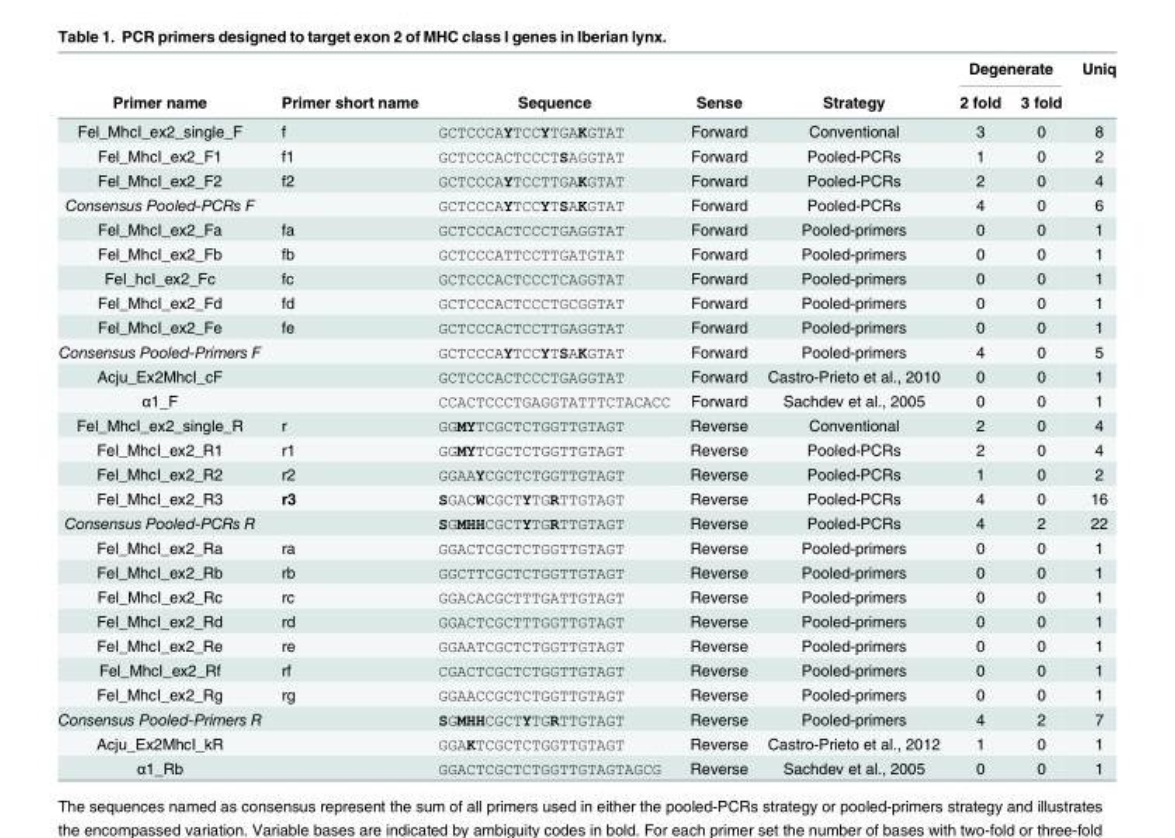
<table><thead><tr><td rowspan="2">Primer name</td><td rowspan="2">Primer short name</td><td rowspan="2">Sequence</td><td rowspan="2">Sense</td><td rowspan="2">Strategy</td><td colspan="2">Degenerate</td><td rowspan="2">Uniq</td></tr><tr><td>2 fold</td><td>3 fold</td></tr></thead><tbody><tr><td>Fel_MhcI_ex2_single_F</td><td>f</td><td>GCTCCCAYTCCYTGAKGTAT</td><td>Forward</td><td>Conventional</td><td>3</td><td>0</td><td>8</td></tr><tr><td>Fel_MhcI_ex2_F1</td><td>f1</td><td>GCTCCCACTCCCTSAGGTAT</td><td>Forward</td><td>Pooled-PCRs</td><td>1</td><td>0</td><td>2</td></tr><tr><td>Fel_MhcI_ex2_F2</td><td>f2</td><td>GCTCCCAYTCCTTGAKGTAT</td><td>Forward</td><td>Pooled-PCRs</td><td>2</td><td>0</td><td>4</td></tr><tr><td>Consensus Pooled-PCRs F</td><td></td><td>GCTCCCAYTCCYTSAKGTAT</td><td>Forward</td><td>Pooled-PCRs</td><td>4</td><td>0</td><td>6</td></tr><tr><td>Fel_MhcI_ex2_Fa</td><td>fa</td><td>GCTCCCACTCCCTGAGGTAT</td><td>Forward</td><td>Pooled-primers</td><td>0</td><td>0</td><td>1</td></tr><tr><td>Fel_MhcI_ex2_Fb</td><td>fb</td><td>GCTCCCATTCCTTGATGTAT</td><td>Forward</td><td>Pooled-primers</td><td>0</td><td>0</td><td>1</td></tr><tr><td>Fel_hcI_ex2_Fc</td><td>fc</td><td>GCTCCCACTCCCTCAGGTAT</td><td>Forward</td><td>Pooled-primers</td><td>0</td><td>0</td><td>1</td></tr><tr><td>Fel_MhcI_ex2_Fd</td><td>fd</td><td>GCTCCCACTCCCTGCGGTAT</td><td>Forward</td><td>Pooled-primers</td><td>0</td><td>0</td><td>1</td></tr><tr><td>Fel_MhcI_ex2_Fe</td><td>fe</td><td>GCTCCCACTCCTTGAGGTAT</td><td>Forward</td><td>Pooled-primers</td><td>0</td><td>0</td><td>1</td></tr><tr><td>Consensus Pooled-Primers F</td><td></td><td>GCTCCCAYTCCYTSAKGTAT</td><td>Forward</td><td>Pooled-primers</td><td>4</td><td>0</td><td>5</td></tr><tr><td>Acju_Ex2MhcI_cF</td><td></td><td>GCTCCCACTCCCTGAGGTAT</td><td>Forward</td><td>Castro-Prieto et al., 2010</td><td>0</td><td>0</td><td>1</td></tr><tr><td>α1_F</td><td></td><td>CCACTCCCTGAGGTATTTCTACACC</td><td>Forward</td><td>Sachdev et al., 2005</td><td>0</td><td>0</td><td>1</td></tr><tr><td>Fel_MhcI_ex2_single_R</td><td>r</td><td>GGMYTCGCTCTGGTTGTAGT</td><td>Reverse</td><td>Conventional</td><td>2</td><td>0</td><td>4</td></tr><tr><td>Fel_MhcI_ex2_R1</td><td>r1</td><td>GGMYTCGCTCTGGTTGTAGT</td><td>Reverse</td><td>Pooled-PCRs</td><td>2</td><td>0</td><td>4</td></tr><tr><td>Fel_MhcI_ex2_R2</td><td>r2</td><td>GGAAYCGCTCTGGTTGTAGT</td><td>Reverse</td><td>Pooled-PCRs</td><td>1</td><td>0</td><td>2</td></tr><tr><td>Fel_MhcI_ex2_R3</td><td>r3</td><td>SGACWCGCTYTGRTTGTAGT</td><td>Reverse</td><td>Pooled-PCRs</td><td>4</td><td>0</td><td>16</td></tr><tr><td>Consensus Pooled-PCRs R</td><td></td><td>SGMHHCGCTYTGRTTGTAGT</td><td>Reverse</td><td>Pooled-PCRs</td><td>4</td><td>2</td><td>22</td></tr><tr><td>Fel_MhcI_ex2_Ra</td><td>ra</td><td>GGACTCGCTCTGGTTGTAGT</td><td>Reverse</td><td>Pooled-primers</td><td>0</td><td>0</td><td>1</td></tr><tr><td>Fel_MhcI_ex2_Rb</td><td>rb</td><td>GGCTTCGCTCTGGTTGTAGT</td><td>Reverse</td><td>Pooled-primers</td><td>0</td><td>0</td><td>1</td></tr><tr><td>Fel_MhcI_ex2_Rc</td><td>rc</td><td>GGACACGCTTTGATTGTAGT</td><td>Reverse</td><td>Pooled-primers</td><td>0</td><td>0</td><td>1</td></tr><tr><td>Fel_MhcI_ex2_Rd</td><td>rd</td><td>GGACTCGCTTTGGTTGTAGT</td><td>Reverse</td><td>Pooled-primers</td><td>0</td><td>0</td><td>1</td></tr><tr><td>Fel_MhcI_ex2_Re</td><td>re</td><td>GGAATCGCTCTGGTTGTAGT</td><td>Reverse</td><td>Pooled-primers</td><td>0</td><td>0</td><td>1</td></tr><tr><td>Fel_MhcI_ex2_Rf</td><td>rf</td><td>CGACTCGCTCTGGTTGTAGT</td><td>Reverse</td><td>Pooled-primers</td><td>0</td><td>0</td><td>1</td></tr><tr><td>Fel_MhcI_ex2_Rg</td><td>rg</td><td>GGAACCGCTCTGGTTGTAGT</td><td>Reverse</td><td>Pooled-primers</td><td>0</td><td>0</td><td>1</td></tr><tr><td>Consensus Pooled-Primers R</td><td></td><td>SGMHHCGCTYTGRTTGTAGT</td><td>Reverse</td><td>Pooled-primers</td><td>4</td><td>2</td><td>7</td></tr><tr><td>Acju_Ex2MhcI_kR</td><td></td><td>GGAKTCGCTCTGGTTGTAGT</td><td>Reverse</td><td>Castro-Prieto et al., 2012</td><td>1</td><td>0</td><td>1</td></tr><tr><td>α1_Rb</td><td></td><td>GGACTCGCTCTGGTTGTAGTAGCG</td><td>Reverse</td><td>Sachdev et al., 2005</td><td>0</td><td>0</td><td>1</td></tr></tbody></table>